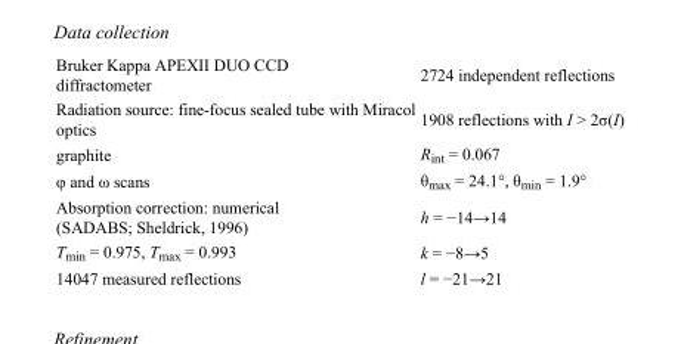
<table><tbody><tr><td>Bruker Kappa APEXII DUO CCD diffractometer</td><td>2724 independent reflections</td></tr><tr><td>Radiation source: fine-focus sealed tube with Miracol optics</td><td>1908 reflections with I &gt; 2σ(I)</td></tr><tr><td>graphite</td><td>R<sub>int</sub> = 0.067</td></tr><tr><td>φ and ω scans</td><td>θ<sub>max</sub> = 24.1°, θ<sub>min</sub> = 1.9°</td></tr><tr><td>Absorption correction: numerical (SADABS; Sheldrick, 1996)</td><td>h = −14→14</td></tr><tr><td>T<sub>min</sub> = 0.975, T<sub>max</sub> = 0.993</td><td>k = −8→5</td></tr><tr><td>14047 measured reflections</td><td>l = −21→21</td></tr></tbody></table>